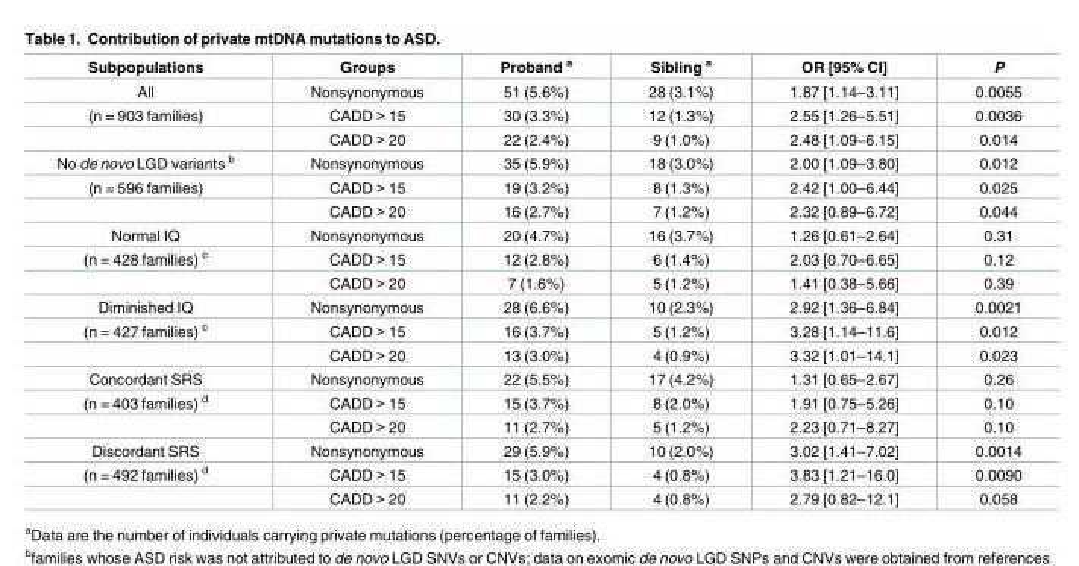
<table><thead><tr><td>Subpopulations</td><td>Groups</td><td>Proband <sup>a</sup></td><td>Sibling <sup>a</sup></td><td>OR [95% CI]</td><td>P</td></tr></thead><tbody><tr><td>All</td><td>Nonsynonymous</td><td>51 (5.6%)</td><td>28 (3.1%)</td><td>1.87 [1.14–3.11]</td><td>0.0055</td></tr><tr><td rowspan="2">(n = 903 families)</td><td>CADD &gt; 15</td><td>30 (3.3%)</td><td>12 (1.3%)</td><td>2.55 [1.26–5.51]</td><td>0.0036</td></tr><tr><td>CADD &gt; 20</td><td>22 (2.4%)</td><td>9 (1.0%)</td><td>2.48 [1.09–6.15]</td><td>0.014</td></tr><tr><td>No de novo LGD variants <sup>b</sup></td><td>Nonsynonymous</td><td>35 (5.9%)</td><td>18 (3.0%)</td><td>2.00 [1.09–3.80]</td><td>0.012</td></tr><tr><td rowspan="2">(n = 596 families)</td><td>CADD &gt; 15</td><td>19 (3.2%)</td><td>8 (1.3%)</td><td>2.42 [1.00–6.44]</td><td>0.025</td></tr><tr><td>CADD &gt; 20</td><td>16 (2.7%)</td><td>7 (1.2%)</td><td>2.32 [0.89–6.72]</td><td>0.044</td></tr><tr><td>Normal IQ</td><td>Nonsynonymous</td><td>20 (4.7%)</td><td>16 (3.7%)</td><td>1.26 [0.61–2.64]</td><td>0.31</td></tr><tr><td rowspan="2">(n = 428 families) <sup>c</sup></td><td>CADD &gt; 15</td><td>12 (2.8%)</td><td>6 (1.4%)</td><td>2.03 [0.70–6.65]</td><td>0.12</td></tr><tr><td>CADD &gt; 20</td><td>7 (1.6%)</td><td>5 (1.2%)</td><td>1.41 [0.38–5.66]</td><td>0.39</td></tr><tr><td>Diminished IQ</td><td>Nonsynonymous</td><td>28 (6.6%)</td><td>10 (2.3%)</td><td>2.92 [1.36–6.84]</td><td>0.0021</td></tr><tr><td rowspan="2">(n = 427 families) <sup>c</sup></td><td>CADD &gt; 15</td><td>16 (3.7%)</td><td>5 (1.2%)</td><td>3.28 [1.14–11.6]</td><td>0.012</td></tr><tr><td>CADD &gt; 20</td><td>13 (3.0%)</td><td>4 (0.9%)</td><td>3.32 [1.01–14.1]</td><td>0.023</td></tr><tr><td>Concordant SRS</td><td>Nonsynonymous</td><td>22 (5.5%)</td><td>17 (4.2%)</td><td>1.31 [0.65–2.67]</td><td>0.26</td></tr><tr><td rowspan="2">(n = 403 families) <sup>d</sup></td><td>CADD &gt; 15</td><td>15 (3.7%)</td><td>8 (2.0%)</td><td>1.91 [0.75–5.26]</td><td>0.10</td></tr><tr><td>CADD &gt; 20</td><td>11 (2.7%)</td><td>5 (1.2%)</td><td>2.23 [0.71–8.27]</td><td>0.10</td></tr><tr><td>Discordant SRS</td><td>Nonsynonymous</td><td>29 (5.9%)</td><td>10 (2.0%)</td><td>3.02 [1.41–7.02]</td><td>0.0014</td></tr><tr><td rowspan="2">(n = 492 families) <sup>d</sup></td><td>CADD &gt; 15</td><td>15 (3.0%)</td><td>4 (0.8%)</td><td>3.83 [1.21–16.0]</td><td>0.0090</td></tr><tr><td>CADD &gt; 20</td><td>11 (2.2%)</td><td>4 (0.8%)</td><td>2.79 [0.82–12.1]</td><td>0.058</td></tr></tbody></table>